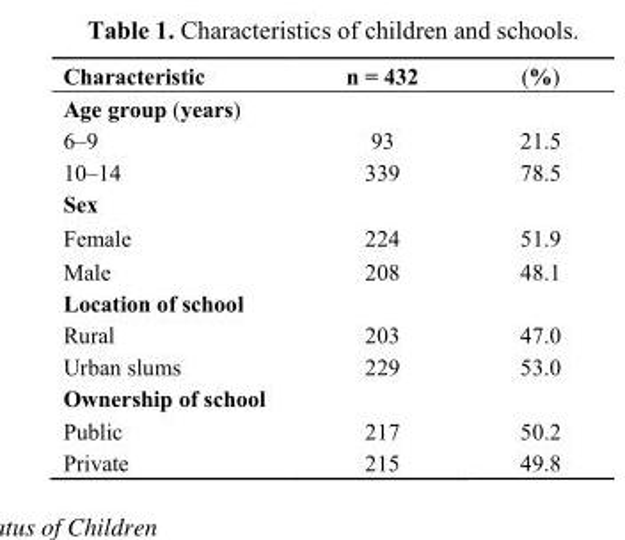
<table><thead><tr><td>Characteristic</td><td>n = 432</td><td>(%)</td></tr></thead><tbody><tr><td colspan="3">Age group (years)</td></tr><tr><td>6–9</td><td>93</td><td>21.5</td></tr><tr><td>10–14</td><td>339</td><td>78.5</td></tr><tr><td colspan="3">Sex</td></tr><tr><td>Female</td><td>224</td><td>51.9</td></tr><tr><td>Male</td><td>208</td><td>48.1</td></tr><tr><td colspan="3">Location of school</td></tr><tr><td>Rural</td><td>203</td><td>47.0</td></tr><tr><td>Urban slums</td><td>229</td><td>53.0</td></tr><tr><td colspan="3">Ownership of school</td></tr><tr><td>Public</td><td>217</td><td>50.2</td></tr><tr><td>Private</td><td>215</td><td>49.8</td></tr></tbody></table>